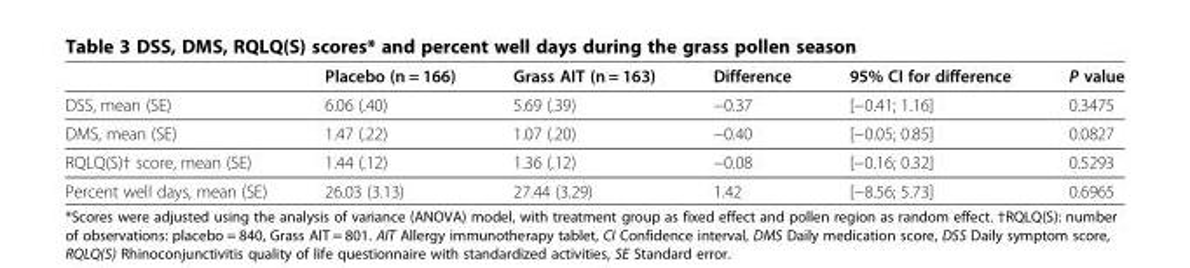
<table><thead><tr><td></td><td>Placebo (n = 166)</td><td>Grass AIT (n = 163)</td><td>Difference</td><td>95% CI for difference</td><td>P value</td></tr></thead><tbody><tr><td>DSS, mean (SE)</td><td>6.06 (.40)</td><td>5.69 (.39)</td><td>−0.37</td><td>[−0.41; 1.16]</td><td>0.3475</td></tr><tr><td>DMS, mean (SE)</td><td>1.47 (.22)</td><td>1.07 (.20)</td><td>−0.40</td><td>[−0.05; 0.85]</td><td>0.0827</td></tr><tr><td>RQLQ(S)† score, mean (SE)</td><td>1.44 (.12)</td><td>1.36 (.12)</td><td>−0.08</td><td>[−0.16; 0.32]</td><td>0.5293</td></tr><tr><td>Percent well days, mean (SE)</td><td>26.03 (3.13)</td><td>27.44 (3.29)</td><td>1.42</td><td>[−8.56; 5.73]</td><td>0.6965</td></tr></tbody></table>